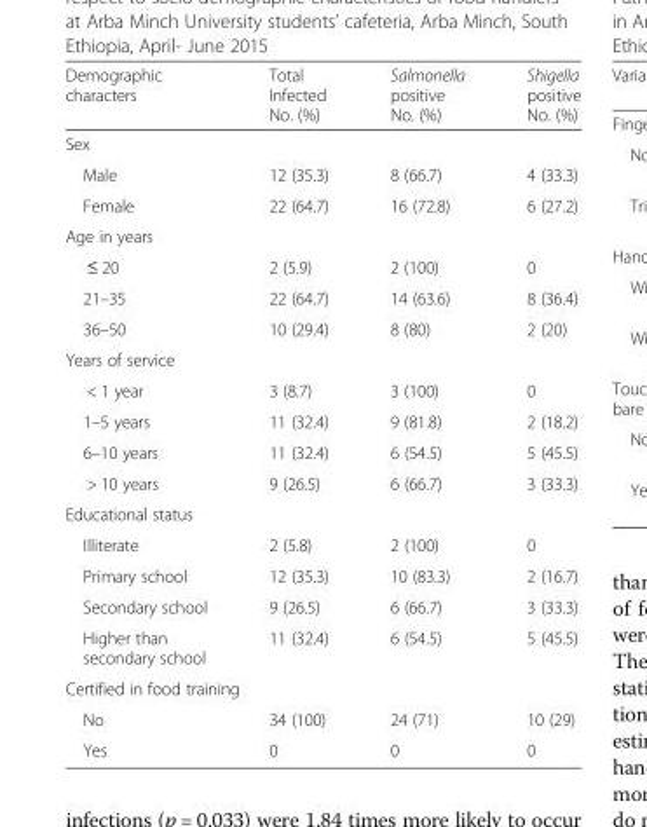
<table><thead><tr><td>Demographic characters</td><td>Total Infected No. (%)</td><td>Salmonella positive No. (%)</td><td>Shigella positive No. (%)</td></tr></thead><tbody><tr><td colspan="4">Sex</td></tr><tr><td>Male</td><td>12 (35.3)</td><td>8 (66.7)</td><td>4 (33.3)</td></tr><tr><td>Female</td><td>22 (64.7)</td><td>16 (72.8)</td><td>6 (27.2)</td></tr><tr><td colspan="4">Age in years</td></tr><tr><td>≤ 20</td><td>2 (5.9)</td><td>2 (100)</td><td>0</td></tr><tr><td>21–35</td><td>22 (64.7)</td><td>14 (63.6)</td><td>8 (36.4)</td></tr><tr><td>36–50</td><td>10 (29.4)</td><td>8 (80)</td><td>2 (20)</td></tr><tr><td colspan="4">Years of service</td></tr><tr><td>&lt; 1 year</td><td>3 (8.7)</td><td>3 (100)</td><td>0</td></tr><tr><td>1–5 years</td><td>11 (32.4)</td><td>9 (81.8)</td><td>2 (18.2)</td></tr><tr><td>6–10 years</td><td>11 (32.4)</td><td>6 (54.5)</td><td>5 (45.5)</td></tr><tr><td>&gt; 10 years</td><td>9 (26.5)</td><td>6 (66.7)</td><td>3 (33.3)</td></tr><tr><td colspan="4">Educational status</td></tr><tr><td>Illiterate</td><td>2 (5.8)</td><td>2 (100)</td><td>0</td></tr><tr><td>Primary school</td><td>12 (35.3)</td><td>10 (83.3)</td><td>2 (16.7)</td></tr><tr><td>Secondary school</td><td>9 (26.5)</td><td>6 (66.7)</td><td>3 (33.3)</td></tr><tr><td>Higher than secondary school</td><td>11 (32.4)</td><td>6 (54.5)</td><td>5 (45.5)</td></tr><tr><td colspan="4">Certified in food training</td></tr><tr><td>No</td><td>34 (100)</td><td>24 (71)</td><td>10 (29)</td></tr><tr><td>Yes</td><td>0</td><td>0</td><td>0</td></tr></tbody></table>